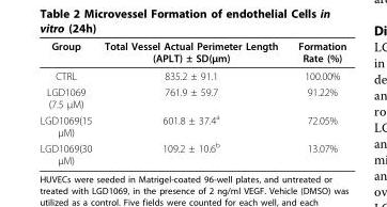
<table><thead><tr><td>Group</td><td>Total Vessel Actual Perimeter Length (APLT) ± SD(μm)</td><td>Formation Rate (%)</td></tr></thead><tbody><tr><td>CTRL</td><td>835.2 ± 91.1</td><td>100.00%</td></tr><tr><td>LGD1069 (7.5 μM)</td><td>761.9 ± 59.7</td><td>91.22%</td></tr><tr><td>LGD1069(15 μM)</td><td>601.8 ± 37.4<sup>a</sup></td><td>72.05%</td></tr><tr><td>LGD1069(30 μM)</td><td>109.2 ± 10.6<sup>b</sup></td><td>13.07%</td></tr></tbody></table>